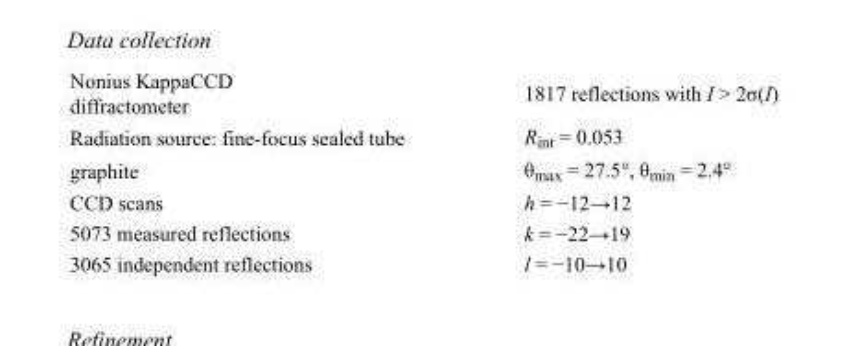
<table><tbody><tr><td>Nonius KappaCCD diffractometer</td><td>1817 reflections with I &gt; 2σ(I)</td></tr><tr><td>Radiation source: fine-focus sealed tube</td><td>R<sub>int</sub> = 0.053</td></tr><tr><td>graphite</td><td>θ<sub>max</sub> = 27.5°, θ<sub>min</sub> = 2.4°</td></tr><tr><td>CCD scans</td><td>h = −12→12</td></tr><tr><td>5073 measured reflections</td><td>k = −22→19</td></tr><tr><td>3065 independent reflections</td><td>l = −10→10</td></tr></tbody></table>